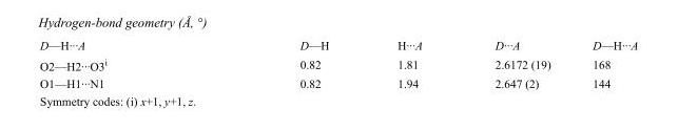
<table><tbody><tr><td>D—H···A</td><td>D—H</td><td>H···A</td><td>D···A</td><td>D—H···A</td></tr><tr><td>O2—H2···O3<sup>i</sup></td><td>0.82</td><td>1.81</td><td>2.6172 (19)</td><td>168</td></tr><tr><td>O1—H1···N1</td><td>0.82</td><td>1.94</td><td>2.647 (2)</td><td>144</td></tr></tbody></table>